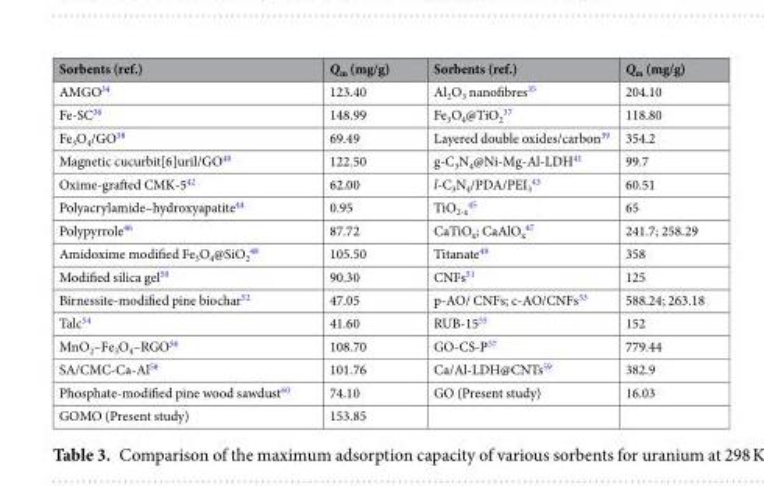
<table><thead><tr><td>Sorbents (ref.)</td><td>Q<sub>m</sub> (mg/g)</td><td>Sorbents (ref.)</td><td>Q<sub>m</sub> (mg/g)</td></tr></thead><tbody><tr><td>AMGO<sup>34</sup></td><td>123.40</td><td>Al<sub>2</sub>O<sub>3</sub> nanofibres<sup>35</sup></td><td>204.10</td></tr><tr><td>Fe-SC<sup>36</sup></td><td>148.99</td><td>Fe<sub>3</sub>O<sub>4</sub>@TiO<sub>2</sub> <sup>37</sup></td><td>118.80</td></tr><tr><td>Fe<sub>3</sub>O<sub>4</sub>/GO<sup>38</sup></td><td>69.49</td><td>Layered double oxides/carbon<sup>39</sup></td><td>354.2</td></tr><tr><td>Magnetic cucurbit[6]uril/GO<sup>40</sup></td><td>122.50</td><td>g-C<sub>3</sub>N<sub>4</sub>@Ni-Mg-Al-LDH<sup>41</sup></td><td>99.7</td></tr><tr><td>Oxime-grafted CMK-5<sup>42</sup></td><td>62.00</td><td>l-C<sub>3</sub>N<sub>4</sub>/PDA/PEI<sub>3</sub> <sup>43</sup></td><td>60.51</td></tr><tr><td>Polyacrylamide–hydroxyapatite<sup>44</sup></td><td>0.95</td><td>TiO<sub>2-x</sub> <sup>45</sup></td><td>65</td></tr><tr><td>Polypyrrole<sup>46</sup></td><td>87.72</td><td>CaTiO<sub>x</sub>; CaAlO<sub>x</sub> <sup>47</sup></td><td>241.7; 258.29</td></tr><tr><td>Amidoxime modified Fe<sub>3</sub>O<sub>4</sub>@SiO<sub>2</sub> <sup>48</sup></td><td>105.50</td><td>Titanate<sup>49</sup></td><td>358</td></tr><tr><td>Modified silica gel<sup>50</sup></td><td>90.30</td><td>CNFs<sup>51</sup></td><td>125</td></tr><tr><td>Birnessite-modified pine biochar<sup>52</sup></td><td>47.05</td><td>p-AO/ CNFs; c-AO/CNFs<sup>53</sup></td><td>588.24; 263.18</td></tr><tr><td>Talc<sup>54</sup></td><td>41.60</td><td>RUB-15<sup>55</sup></td><td>152</td></tr><tr><td>MnO<sub>2</sub>–Fe<sub>3</sub>O<sub>4</sub>–RGO<sup>56</sup></td><td>108.70</td><td>GO-CS-P<sup>57</sup></td><td>779.44</td></tr><tr><td>SA/CMC-Ca-Al<sup>58</sup></td><td>101.76</td><td>Ca/Al-LDH@CNTs<sup>59</sup></td><td>382.9</td></tr><tr><td>Phosphate-modified pine wood sawdust<sup>60</sup></td><td>74.10</td><td>GO (Present study)</td><td>16.03</td></tr><tr><td>GOMO (Present study)</td><td>153.85</td><td></td><td></td></tr></tbody></table>